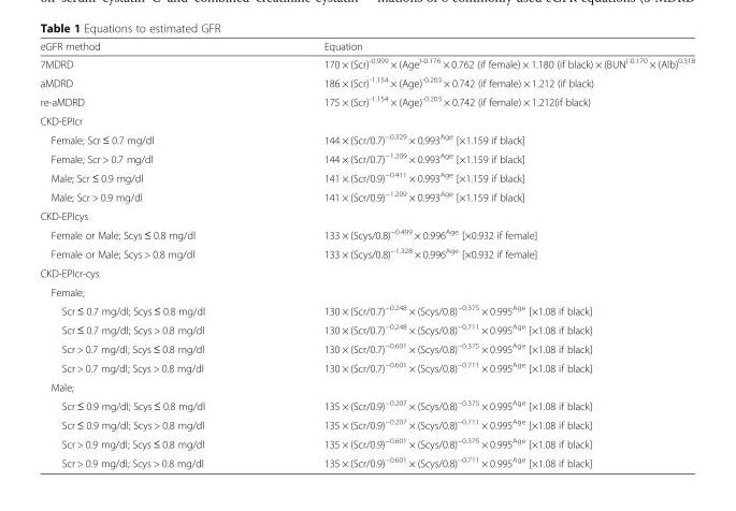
<table><thead><tr><td>eGFR method</td><td>Equation</td></tr></thead><tbody><tr><td>7MDRD</td><td>170 × (Scr)<sup>-0.999</sup> × (Age<sup>)-0.176</sup> × 0.762 (if female) × 1.180 (if black) × (BUN<sup>)-0.170</sup> × (Alb)<sup>0.318</sup></td></tr><tr><td>aMDRD</td><td>186 × (Scr)<sup>-1.154</sup> × (Age)<sup>-0.203</sup> × 0.742 (if female) × 1.212 (if black)</td></tr><tr><td>re-aMDRD</td><td>175 × (Scr)<sup>-1.154</sup> × (Age)<sup>-0.203</sup> × 0.742 (if female) × 1.212(if black)</td></tr><tr><td colspan="2">CKD-EPIcr</td></tr><tr><td>Female; Scr ≤ 0.7 mg/dl</td><td>144 × (Scr/0.7)<sup>−0.329</sup> × 0.993<sup>Age</sup> [×1.159 if black]</td></tr><tr><td>Female; Scr &gt; 0.7 mg/dl</td><td>144 × (Scr/0.7)<sup>−1.209</sup> × 0.993<sup>Age</sup> [×1.159 if black]</td></tr><tr><td>Male; Scr ≤ 0.9 mg/dl</td><td>141 × (Scr/0.9)<sup>−0.411</sup> × 0.993<sup>Age</sup> [×1.159 if black]</td></tr><tr><td>Male; Scr &gt; 0.9 mg/dl</td><td>141 × (Scr/0.9)<sup>−1.209</sup> × 0.993<sup>Age</sup> [×1.159 if black]</td></tr><tr><td colspan="2">CKD-EPIcys</td></tr><tr><td>Female or Male; Scys ≤ 0.8 mg/dl</td><td>133 × (Scys/0.8)<sup>−0.499</sup> × 0.996<sup>Age</sup> [×0.932 if female]</td></tr><tr><td>Female or Male; Scys &gt; 0.8 mg/dl</td><td>133 × (Scys/0.8)<sup>−1.328</sup> × 0.996<sup>Age</sup> [×0.932 if female]</td></tr><tr><td colspan="2">CKD-EPIcr-cys</td></tr><tr><td colspan="2">Female;</td></tr><tr><td>Scr ≤ 0.7 mg/dl; Scys ≤ 0.8 mg/dl</td><td>130 × (Scr/0.7)<sup>−0.248</sup> × (Scys/0.8)<sup>−0.375</sup> × 0.995<sup>Age</sup> [×1.08 if black]</td></tr><tr><td>Scr ≤ 0.7 mg/dl; Scys &gt; 0.8 mg/dl</td><td>130 × (Scr/0.7)<sup>−0.248</sup> × (Scys/0.8)<sup>−0.711</sup> × 0.995<sup>Age</sup> [×1.08 if black]</td></tr><tr><td>Scr &gt; 0.7 mg/dl; Scys ≤ 0.8 mg/dl</td><td>130 × (Scr/0.7)<sup>−0.601</sup> × (Scys/0.8)<sup>−0.375</sup> × 0.995<sup>Age</sup> [×1.08 if black]</td></tr><tr><td>Scr &gt; 0.7 mg/dl; Scys &gt; 0.8 mg/dl</td><td>130 × (Scr/0.7)<sup>−0.601</sup> × (Scys/0.8)<sup>−0.711</sup> × 0.995<sup>Age</sup> [×1.08 if black]</td></tr><tr><td colspan="2">Male;</td></tr><tr><td>Scr ≤ 0.9 mg/dl; Scys ≤ 0.8 mg/dl</td><td>135 × (Scr/0.9)<sup>−0.207</sup> × (Scys/0.8)<sup>−0.375</sup> × 0.995<sup>Age</sup> [×1.08 if black]</td></tr><tr><td>Scr ≤ 0.9 mg/dl; Scys &gt; 0.8 mg/dl</td><td>135 × (Scr/0.9)<sup>−0.207</sup> × (Scys/0.8)<sup>−0.711</sup> × 0.995<sup>Age</sup> [×1.08 if black]</td></tr><tr><td>Scr &gt; 0.9 mg/dl; Scys ≤ 0.8 mg/dl</td><td>135 × (Scr/0.9)<sup>−0.601</sup> × (Scys/0.8)<sup>−0.375</sup> × 0.995<sup>Age</sup> [×1.08 if black]</td></tr><tr><td>Scr &gt; 0.9 mg/dl; Scys &gt; 0.8 mg/dl</td><td>135 × (Scr/0.9)<sup>−0.601</sup> × (Scys/0.8)<sup>−0.711</sup> × 0.995<sup>Age</sup> [×1.08 if black]</td></tr></tbody></table>